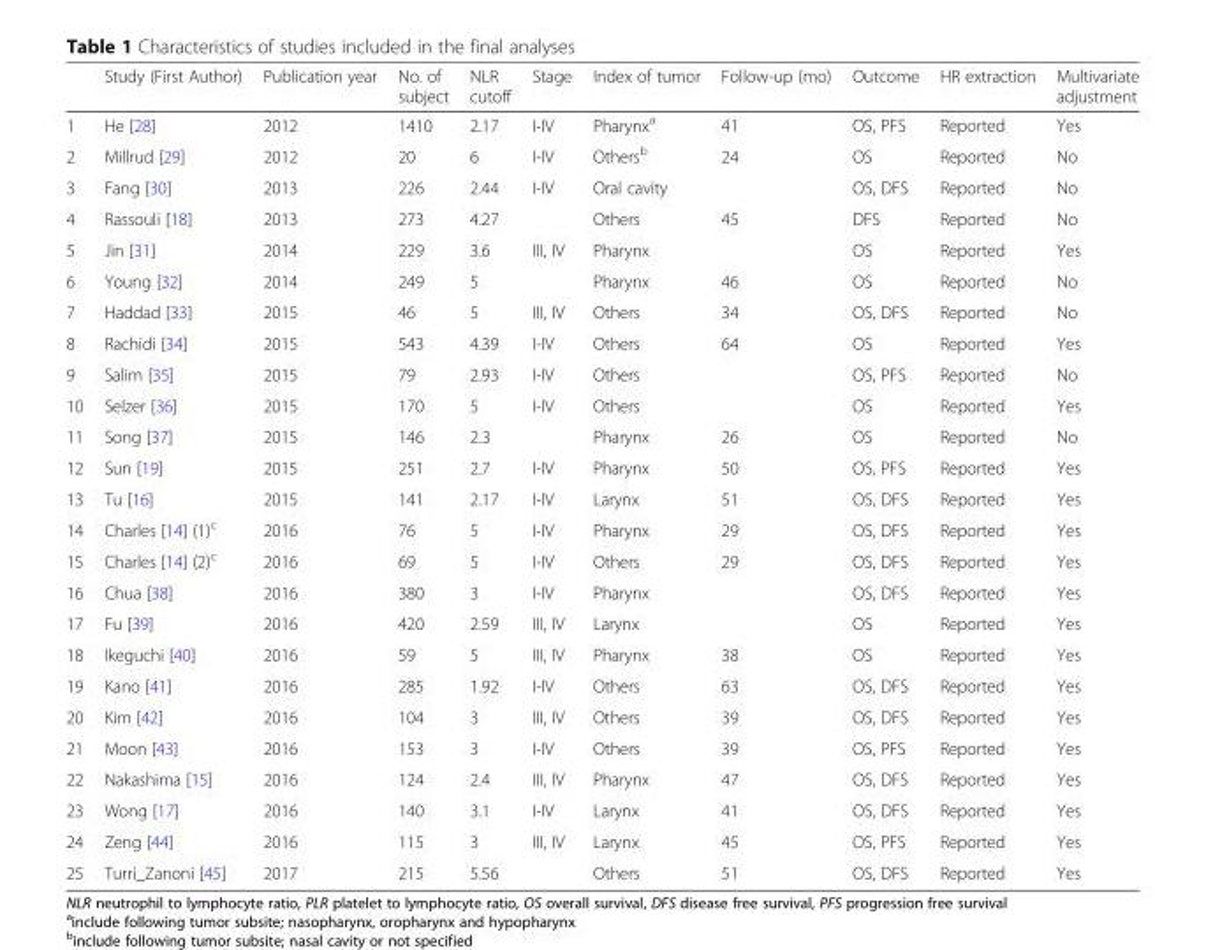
<table><thead><tr><td></td><td>Study (First Author)</td><td>Publication year</td><td>No. of subject</td><td>NLR cutoff</td><td>Stage</td><td>Index of tumor</td><td>Follow-up (mo)</td><td>Outcome</td><td>HR extraction</td><td>Multivariate adjustment</td></tr></thead><tbody><tr><td>1</td><td>He [28]</td><td>2012</td><td>1410</td><td>2.17</td><td>I-IV</td><td>Pharynx<sup>a</sup></td><td>41</td><td>OS, PFS</td><td>Reported</td><td>Yes</td></tr><tr><td>2</td><td>Millrud [29]</td><td>2012</td><td>20</td><td>6</td><td>I-IV</td><td>Others<sup>b</sup></td><td>24</td><td>OS</td><td>Reported</td><td>No</td></tr><tr><td>3</td><td>Fang [30]</td><td>2013</td><td>226</td><td>2.44</td><td>I-IV</td><td>Oral cavity</td><td></td><td>OS, DFS</td><td>Reported</td><td>No</td></tr><tr><td>4</td><td>Rassouli [18]</td><td>2013</td><td>273</td><td>4.27</td><td></td><td>Others</td><td>45</td><td>DFS</td><td>Reported</td><td>No</td></tr><tr><td>5</td><td>Jin [31]</td><td>2014</td><td>229</td><td>3.6</td><td>III, IV</td><td>Pharynx</td><td></td><td>OS</td><td>Reported</td><td>Yes</td></tr><tr><td>6</td><td>Young [32]</td><td>2014</td><td>249</td><td>5</td><td></td><td>Pharynx</td><td>46</td><td>OS</td><td>Reported</td><td>No</td></tr><tr><td>7</td><td>Haddad [33]</td><td>2015</td><td>46</td><td>5</td><td>III, IV</td><td>Others</td><td>34</td><td>OS, DFS</td><td>Reported</td><td>No</td></tr><tr><td>8</td><td>Rachidi [34]</td><td>2015</td><td>543</td><td>4.39</td><td>I-IV</td><td>Others</td><td>64</td><td>OS</td><td>Reported</td><td>Yes</td></tr><tr><td>9</td><td>Salim [35]</td><td>2015</td><td>79</td><td>2.93</td><td>I-IV</td><td>Others</td><td></td><td>OS, PFS</td><td>Reported</td><td>No</td></tr><tr><td>10</td><td>Selzer [36]</td><td>2015</td><td>170</td><td>5</td><td>I-IV</td><td>Others</td><td></td><td>OS</td><td>Reported</td><td>Yes</td></tr><tr><td>11</td><td>Song [37]</td><td>2015</td><td>146</td><td>2.3</td><td></td><td>Pharynx</td><td>26</td><td>OS</td><td>Reported</td><td>No</td></tr><tr><td>12</td><td>Sun [19]</td><td>2015</td><td>251</td><td>2.7</td><td>I-IV</td><td>Pharynx</td><td>50</td><td>OS, PFS</td><td>Reported</td><td>Yes</td></tr><tr><td>13</td><td>Tu [16]</td><td>2015</td><td>141</td><td>2.17</td><td>I-IV</td><td>Larynx</td><td>51</td><td>OS, DFS</td><td>Reported</td><td>Yes</td></tr><tr><td>14</td><td>Charles [14] (1)<sup>c</sup></td><td>2016</td><td>76</td><td>5</td><td>I-IV</td><td>Pharynx</td><td>29</td><td>OS, DFS</td><td>Reported</td><td>Yes</td></tr><tr><td>15</td><td>Charles [14] (2)<sup>c</sup></td><td>2016</td><td>69</td><td>5</td><td>I-IV</td><td>Others</td><td>29</td><td>OS, DFS</td><td>Reported</td><td>Yes</td></tr><tr><td>16</td><td>Chua [38]</td><td>2016</td><td>380</td><td>3</td><td>I-IV</td><td>Pharynx</td><td></td><td>OS, DFS</td><td>Reported</td><td>Yes</td></tr><tr><td>17</td><td>Fu [39]</td><td>2016</td><td>420</td><td>2.59</td><td>III, IV</td><td>Larynx</td><td></td><td>OS</td><td>Reported</td><td>Yes</td></tr><tr><td>18</td><td>Ikeguchi [40]</td><td>2016</td><td>59</td><td>5</td><td>III, IV</td><td>Pharynx</td><td>38</td><td>OS</td><td>Reported</td><td>Yes</td></tr><tr><td>19</td><td>Kano [41]</td><td>2016</td><td>285</td><td>1.92</td><td>I-IV</td><td>Others</td><td>63</td><td>OS, DFS</td><td>Reported</td><td>Yes</td></tr><tr><td>20</td><td>Kim [42]</td><td>2016</td><td>104</td><td>3</td><td>III, IV</td><td>Others</td><td>39</td><td>OS, DFS</td><td>Reported</td><td>Yes</td></tr><tr><td>21</td><td>Moon [43]</td><td>2016</td><td>153</td><td>3</td><td>I-IV</td><td>Others</td><td>39</td><td>OS, PFS</td><td>Reported</td><td>Yes</td></tr><tr><td>22</td><td>Nakashima [15]</td><td>2016</td><td>124</td><td>2.4</td><td>III, IV</td><td>Pharynx</td><td>47</td><td>OS, DFS</td><td>Reported</td><td>Yes</td></tr><tr><td>23</td><td>Wong [17]</td><td>2016</td><td>140</td><td>3.1</td><td>I-IV</td><td>Larynx</td><td>41</td><td>OS, DFS</td><td>Reported</td><td>Yes</td></tr><tr><td>24</td><td>Zeng [44]</td><td>2016</td><td>115</td><td>3</td><td>III, IV</td><td>Larynx</td><td>45</td><td>OS, PFS</td><td>Reported</td><td>Yes</td></tr><tr><td>25</td><td>Turri_Zanoni [45]</td><td>2017</td><td>215</td><td>5.56</td><td></td><td>Others</td><td>51</td><td>OS, DFS</td><td>Reported</td><td>Yes</td></tr></tbody></table>